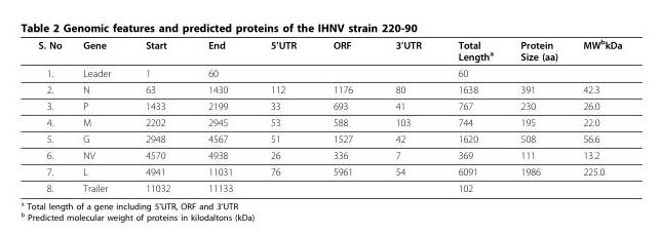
<table><thead><tr><td>S. No</td><td>Gene</td><td>Start</td><td>End</td><td>5’UTR</td><td>ORF</td><td>3’UTR</td><td>Total Length<sup>a</sup></td><td>Protein Size (aa)</td><td>MW<sup>b</sup>kDa</td></tr></thead><tbody><tr><td>1.</td><td>Leader</td><td>1</td><td>60</td><td></td><td></td><td></td><td>60</td><td></td><td></td></tr><tr><td>2.</td><td>N</td><td>63</td><td>1430</td><td>112</td><td>1176</td><td>80</td><td>1638</td><td>391</td><td>42.3</td></tr><tr><td>3.</td><td>P</td><td>1433</td><td>2199</td><td>33</td><td>693</td><td>41</td><td>767</td><td>230</td><td>26.0</td></tr><tr><td>4.</td><td>M</td><td>2202</td><td>2945</td><td>53</td><td>588</td><td>103</td><td>744</td><td>195</td><td>22.0</td></tr><tr><td>5.</td><td>G</td><td>2948</td><td>4567</td><td>51</td><td>1527</td><td>42</td><td>1620</td><td>508</td><td>56.6</td></tr><tr><td>6.</td><td>NV</td><td>4570</td><td>4938</td><td>26</td><td>336</td><td>7</td><td>369</td><td>111</td><td>13.2</td></tr><tr><td>7.</td><td>L</td><td>4941</td><td>11031</td><td>76</td><td>5961</td><td>54</td><td>6091</td><td>1986</td><td>225.0</td></tr><tr><td>8.</td><td>Trailer</td><td>11032</td><td>11133</td><td></td><td></td><td></td><td>102</td><td></td><td></td></tr></tbody></table>